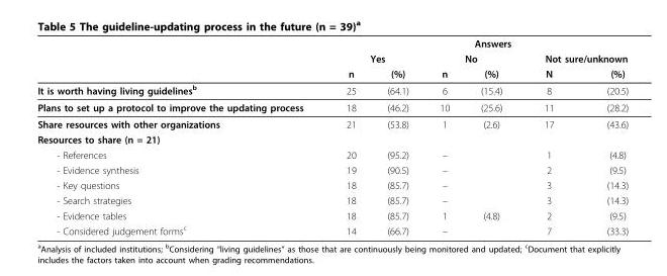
<table><thead><tr><td rowspan="3"></td><td colspan="6">Answers</td></tr><tr><td colspan="2">Yes</td><td colspan="2">No</td><td colspan="2">Not sure/unknown</td></tr><tr><td>n</td><td>(%)</td><td>n</td><td>(%)</td><td>N</td><td>(%)</td></tr></thead><tbody><tr><td>It is worth having living guidelines<sup>b</sup></td><td>25</td><td>(64.1)</td><td>6</td><td>(15.4)</td><td>8</td><td>(20.5)</td></tr><tr><td>Plans to set up a protocol to improve the updating process</td><td>18</td><td>(46.2)</td><td>10</td><td>(25.6)</td><td>11</td><td>(28.2)</td></tr><tr><td>Share resources with other organizations</td><td>21</td><td>(53.8)</td><td>1</td><td>(2.6)</td><td>17</td><td>(43.6)</td></tr><tr><td colspan="7">Resources to share (n = 21)</td></tr><tr><td>- References</td><td>20</td><td>(95.2)</td><td>–</td><td></td><td>1</td><td>(4.8)</td></tr><tr><td>- Evidence synthesis</td><td>19</td><td>(90.5)</td><td>–</td><td></td><td>2</td><td>(9.5)</td></tr><tr><td>- Key questions</td><td>18</td><td>(85.7)</td><td>–</td><td></td><td>3</td><td>(14.3)</td></tr><tr><td>- Search strategies</td><td>18</td><td>(85.7)</td><td>–</td><td></td><td>3</td><td>(14.3)</td></tr><tr><td>- Evidence tables</td><td>18</td><td>(85.7)</td><td>1</td><td>(4.8)</td><td>2</td><td>(9.5)</td></tr><tr><td>- Considered judgement forms<sup>c</sup></td><td>14</td><td>(66.7)</td><td>–</td><td></td><td>7</td><td>(33.3)</td></tr></tbody></table>